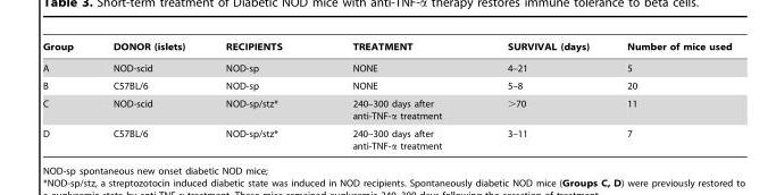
<table><thead><tr><td>Group</td><td>DONOR (islets)</td><td>RECIPIENTS</td><td>TREATMENT</td><td>SURVIVAL (days)</td><td>Number of mice used</td></tr></thead><tbody><tr><td>A</td><td>NOD-scid</td><td>NOD-sp</td><td>NONE</td><td>4–21</td><td>5</td></tr><tr><td>B</td><td>C57BL/6</td><td>NOD-sp</td><td>NONE</td><td>5–8</td><td>20</td></tr><tr><td>C</td><td>NOD-scid</td><td>NOD-sp/stz*</td><td>240–300 days after anti-TNF-α treatment</td><td>&gt;70</td><td>11</td></tr><tr><td>D</td><td>C57BL/6</td><td>NOD-sp/stz*</td><td>240–300 days after anti-TNF-α treatment</td><td>3–11</td><td>7</td></tr></tbody></table>